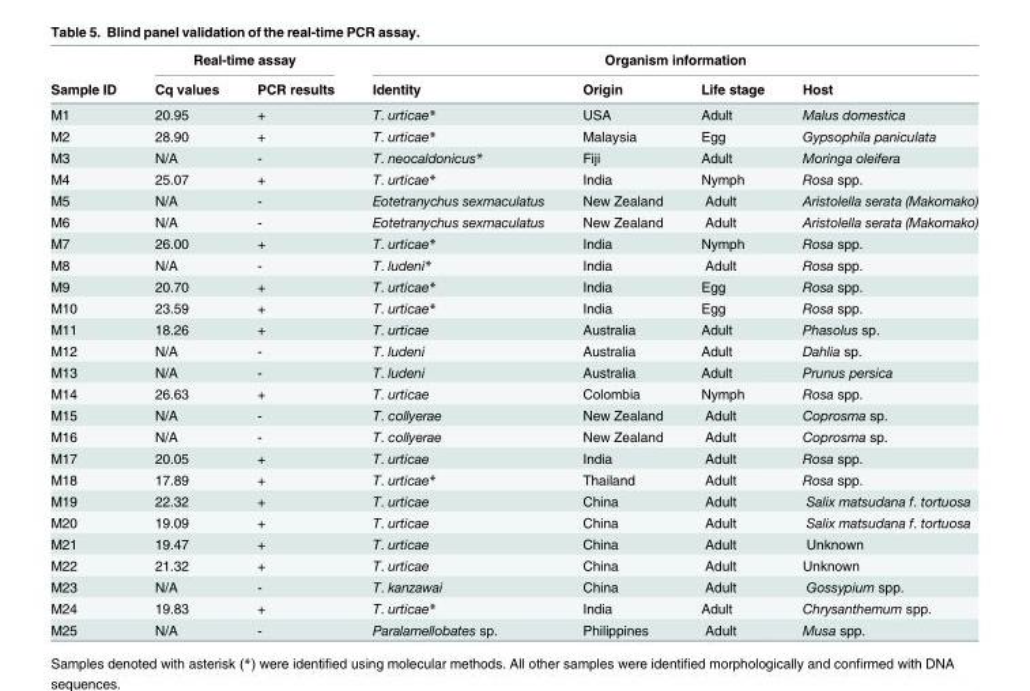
<table><thead><tr><td rowspan="2">Sample ID</td><td colspan="2">Real-time assay</td><td colspan="4">Organism information</td></tr><tr><td>Cq values</td><td>PCR results</td><td>Identity</td><td>Origin</td><td>Life stage</td><td>Host</td></tr></thead><tbody><tr><td>M1</td><td>20.95</td><td>+</td><td>T. urticae*</td><td>USA</td><td>Adult</td><td>Malus domestica</td></tr><tr><td>M2</td><td>28.90</td><td>+</td><td>T. urticae*</td><td>Malaysia</td><td>Egg</td><td>Gypsophila paniculata</td></tr><tr><td>M3</td><td>N/A</td><td>-</td><td>T. neocaldonicus*</td><td>Fiji</td><td>Adult</td><td>Moringa oleifera</td></tr><tr><td>M4</td><td>25.07</td><td>+</td><td>T. urticae*</td><td>India</td><td>Nymph</td><td>Rosa spp.</td></tr><tr><td>M5</td><td>N/A</td><td>-</td><td>Eotetranychus sexmaculatus</td><td>New Zealand</td><td>Adult</td><td>Aristolella serata (Makomako)</td></tr><tr><td>M6</td><td>N/A</td><td>-</td><td>Eotetranychus sexmaculatus</td><td>New Zealand</td><td>Adult</td><td>Aristolella serata (Makomako)</td></tr><tr><td>M7</td><td>26.00</td><td>+</td><td>T. urticae*</td><td>India</td><td>Nymph</td><td>Rosa spp.</td></tr><tr><td>M8</td><td>N/A</td><td>-</td><td>T. ludeni*</td><td>India</td><td>Adult</td><td>Rosa spp.</td></tr><tr><td>M9</td><td>20.70</td><td>+</td><td>T. urticae*</td><td>India</td><td>Egg</td><td>Rosa spp.</td></tr><tr><td>M10</td><td>23.59</td><td>+</td><td>T. urticae*</td><td>India</td><td>Egg</td><td>Rosa spp.</td></tr><tr><td>M11</td><td>18.26</td><td>+</td><td>T. urticae</td><td>Australia</td><td>Adult</td><td>Phasolus sp.</td></tr><tr><td>M12</td><td>N/A</td><td>-</td><td>T. ludeni</td><td>Australia</td><td>Adult</td><td>Dahlia sp.</td></tr><tr><td>M13</td><td>N/A</td><td>-</td><td>T. ludeni</td><td>Australia</td><td>Adult</td><td>Prunus persica</td></tr><tr><td>M14</td><td>26.63</td><td>+</td><td>T. urticae</td><td>Colombia</td><td>Nymph</td><td>Rosa spp.</td></tr><tr><td>M15</td><td>N/A</td><td>-</td><td>T. collyerae</td><td>New Zealand</td><td>Adult</td><td>Coprosma sp.</td></tr><tr><td>M16</td><td>N/A</td><td>-</td><td>T. collyerae</td><td>New Zealand</td><td>Adult</td><td>Coprosma sp.</td></tr><tr><td>M17</td><td>20.05</td><td>+</td><td>T. urticae</td><td>India</td><td>Adult</td><td>Rosa spp.</td></tr><tr><td>M18</td><td>17.89</td><td>+</td><td>T. urticae*</td><td>Thailand</td><td>Adult</td><td>Rosa spp.</td></tr><tr><td>M19</td><td>22.32</td><td>+</td><td>T. urticae</td><td>China</td><td>Adult</td><td>Salix matsudana f. tortuosa</td></tr><tr><td>M20</td><td>19.09</td><td>+</td><td>T. urticae</td><td>China</td><td>Adult</td><td>Salix matsudana f. tortuosa</td></tr><tr><td>M21</td><td>19.47</td><td>+</td><td>T. urticae</td><td>China</td><td>Adult</td><td>Unknown</td></tr><tr><td>M22</td><td>21.32</td><td>+</td><td>T. urticae</td><td>China</td><td>Adult</td><td>Unknown</td></tr><tr><td>M23</td><td>N/A</td><td>-</td><td>T. kanzawai</td><td>China</td><td>Adult</td><td>Gossypium spp.</td></tr><tr><td>M24</td><td>19.83</td><td>+</td><td>T. urticae*</td><td>India</td><td>Adult</td><td>Chrysanthemum spp.</td></tr><tr><td>M25</td><td>N/A</td><td>-</td><td>Paralamellobates sp.</td><td>Philippines</td><td>Adult</td><td>Musa spp.</td></tr></tbody></table>